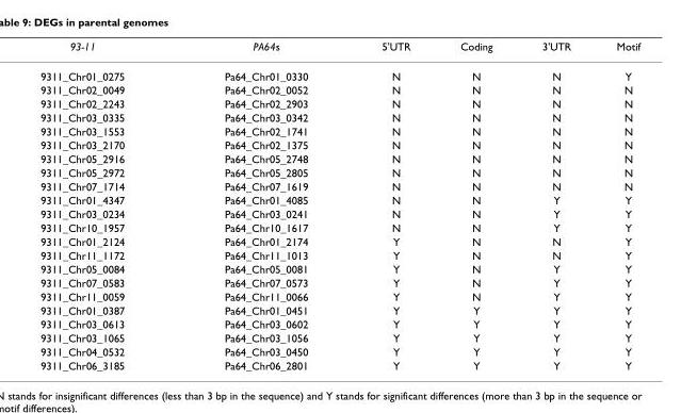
<table><thead><tr><td>93-11</td><td>PA64s</td><td>5&#x27;UTR</td><td>Coding</td><td>3&#x27;UTR</td><td>Motif</td></tr></thead><tbody><tr><td>9311_Chr01_0275</td><td>Pa64_Chr01_0330</td><td>N</td><td>N</td><td>N</td><td>Y</td></tr><tr><td>9311_Chr02_0049</td><td>Pa64_Chr02_0052</td><td>N</td><td>N</td><td>N</td><td>N</td></tr><tr><td>9311_Chr02_2243</td><td>Pa64_Chr02_2903</td><td>N</td><td>N</td><td>N</td><td>N</td></tr><tr><td>9311_Chr03_0335</td><td>Pa64_Chr03_0342</td><td>N</td><td>N</td><td>N</td><td>N</td></tr><tr><td>9311_Chr03_1553</td><td>Pa64_Chr02_1741</td><td>N</td><td>N</td><td>N</td><td>N</td></tr><tr><td>9311_Chr03_2170</td><td>Pa64_Chr02_1375</td><td>N</td><td>N</td><td>N</td><td>N</td></tr><tr><td>9311_Chr05_2916</td><td>Pa64_Chr05_2748</td><td>N</td><td>N</td><td>N</td><td>N</td></tr><tr><td>9311_Chr05_2972</td><td>Pa64_Chr05_2805</td><td>N</td><td>N</td><td>N</td><td>N</td></tr><tr><td>9311_Chr07_1714</td><td>Pa64_Chr07_1619</td><td>N</td><td>N</td><td>N</td><td>N</td></tr><tr><td>9311_Chr01_4347</td><td>Pa64_Chr01_4085</td><td>N</td><td>N</td><td>Y</td><td>Y</td></tr><tr><td>9311_Chr03_0234</td><td>Pa64_Chr03_0241</td><td>N</td><td>N</td><td>Y</td><td>Y</td></tr><tr><td>9311_Chr10_1957</td><td>Pa64_Chr10_1617</td><td>N</td><td>N</td><td>Y</td><td>Y</td></tr><tr><td>9311_Chr01_2124</td><td>Pa64_Chr01_2174</td><td>Y</td><td>N</td><td>N</td><td>Y</td></tr><tr><td>9311_Chr11_1172</td><td>Pa64_Chr11_1013</td><td>Y</td><td>N</td><td>N</td><td>Y</td></tr><tr><td>9311_Chr05_0084</td><td>Pa64_Chr05_0081</td><td>Y</td><td>N</td><td>Y</td><td>Y</td></tr><tr><td>9311_Chr07_0583</td><td>Pa64_Chr07_0573</td><td>Y</td><td>N</td><td>Y</td><td>Y</td></tr><tr><td>9311_Chr11_0059</td><td>Pa64_Chr11_0066</td><td>Y</td><td>N</td><td>Y</td><td>Y</td></tr><tr><td>9311_Chr01_0387</td><td>Pa64_Chr01_0451</td><td>Y</td><td>Y</td><td>Y</td><td>Y</td></tr><tr><td>9311_Chr03_0613</td><td>Pa64_Chr03_0602</td><td>Y</td><td>Y</td><td>Y</td><td>Y</td></tr><tr><td>9311_Chr03_1065</td><td>Pa64_Chr03_1056</td><td>Y</td><td>Y</td><td>Y</td><td>Y</td></tr><tr><td>9311_Chr04_0532</td><td>Pa64_Chr03_0450</td><td>Y</td><td>Y</td><td>Y</td><td>Y</td></tr><tr><td>9311_Chr06_3185</td><td>Pa64_Chr06_2801</td><td>Y</td><td>Y</td><td>Y</td><td>Y</td></tr></tbody></table>